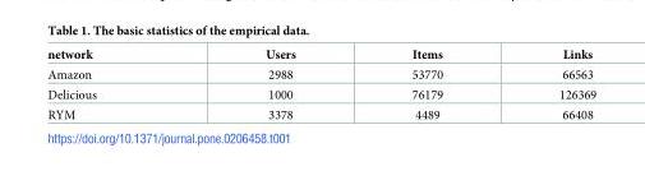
<table><thead><tr><td>network</td><td>Users</td><td>Items</td><td>Links</td></tr></thead><tbody><tr><td>Amazon</td><td>2988</td><td>53770</td><td>66563</td></tr><tr><td>Delicious</td><td>1000</td><td>76179</td><td>126369</td></tr><tr><td>RYM</td><td>3378</td><td>4489</td><td>66408</td></tr></tbody></table>